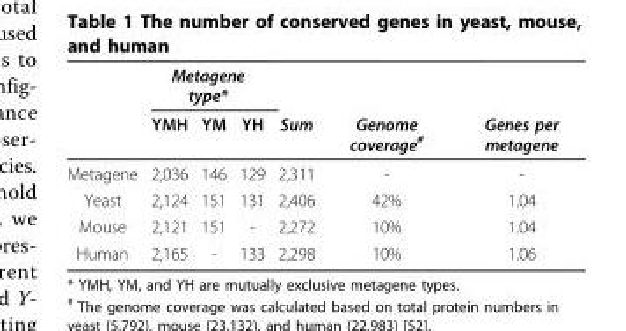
<table><thead><tr><td rowspan="2"></td><td colspan="3">Metagene type*</td><td rowspan="2">Sum</td><td rowspan="2">Genome coverage<sup>#</sup></td><td rowspan="2">Genes per metagene</td></tr><tr><td>YMH</td><td>YM</td><td>YH</td></tr></thead><tbody><tr><td>Metagene</td><td>2,036</td><td>146</td><td>129</td><td>2,311</td><td>-</td><td>-</td></tr><tr><td>Yeast</td><td>2,124</td><td>151</td><td>131</td><td>2,406</td><td>42%</td><td>1.04</td></tr><tr><td>Mouse</td><td>2,121</td><td>151</td><td>-</td><td>2,272</td><td>10%</td><td>1.04</td></tr><tr><td>Human</td><td>2,165</td><td>-</td><td>133</td><td>2,298</td><td>10%</td><td>1.06</td></tr></tbody></table>